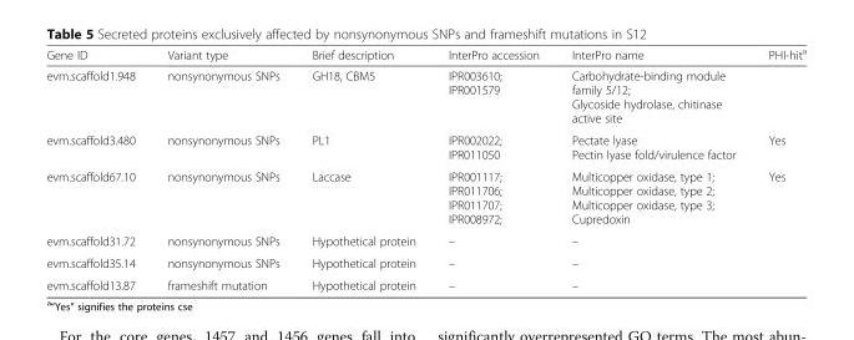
<table><thead><tr><td>Gene ID</td><td>Variant type</td><td>Brief description</td><td>InterPro accession</td><td>InterPro name</td><td>PHI-hit<sup>a</sup></td></tr></thead><tbody><tr><td>evm.scaffold1.948</td><td>nonsynonymous SNPs</td><td>GH18, CBM5</td><td>IPR003610; IPR001579</td><td>Carbohydrate-binding module family 5/12; Glycoside hydrolase, chitinase active site</td><td></td></tr><tr><td>evm.scaffold3.480</td><td>nonsynonymous SNPs</td><td>PL1</td><td>IPR002022; IPR011050</td><td>Pectate lyase Pectin lyase fold/virulence factor</td><td>Yes</td></tr><tr><td>evm.scaffold67.10</td><td>nonsynonymous SNPs</td><td>Laccase</td><td>IPR001117; IPR011706; IPR011707; IPR008972;</td><td>Multicopper oxidase, type 1; Multicopper oxidase, type 2; Multicopper oxidase, type 3; Cupredoxin</td><td>Yes</td></tr><tr><td>evm.scaffold31.72</td><td>nonsynonymous SNPs</td><td>Hypothetical protein</td><td>–</td><td>–</td><td></td></tr><tr><td>evm.scaffold35.14</td><td>nonsynonymous SNPs</td><td>Hypothetical protein</td><td>–</td><td>–</td><td></td></tr><tr><td>evm.scaffold13.87</td><td>frameshift mutation</td><td>Hypothetical protein</td><td>–</td><td>–</td><td></td></tr></tbody></table>